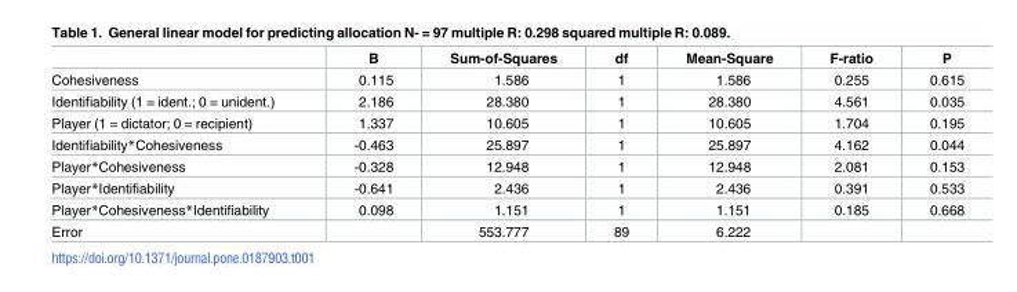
<table><thead><tr><td></td><td>B</td><td>Sum-of-Squares</td><td>df</td><td>Mean-Square</td><td>F-ratio</td><td>P</td></tr></thead><tbody><tr><td>Cohesiveness</td><td>0.115</td><td>1.586</td><td>1</td><td>1.586</td><td>0.255</td><td>0.615</td></tr><tr><td>Identifiability (1 = ident.; 0 = unident.)</td><td>2.186</td><td>28.380</td><td>1</td><td>28.380</td><td>4.561</td><td>0.035</td></tr><tr><td>Player (1 = dictator; 0 = recipient)</td><td>1.337</td><td>10.605</td><td>1</td><td>10.605</td><td>1.704</td><td>0.195</td></tr><tr><td>Identifiability*Cohesiveness</td><td>-0.463</td><td>25.897</td><td>1</td><td>25.897</td><td>4.162</td><td>0.044</td></tr><tr><td>Player*Cohesiveness</td><td>-0.328</td><td>12.948</td><td>1</td><td>12.948</td><td>2.081</td><td>0.153</td></tr><tr><td>Player*Identifiability</td><td>-0.641</td><td>2.436</td><td>1</td><td>2.436</td><td>0.391</td><td>0.533</td></tr><tr><td>Player*Cohesiveness*Identifiability</td><td>0.098</td><td>1.151</td><td>1</td><td>1.151</td><td>0.185</td><td>0.668</td></tr><tr><td>Error</td><td></td><td>553.777</td><td>89</td><td>6.222</td><td></td><td></td></tr></tbody></table>